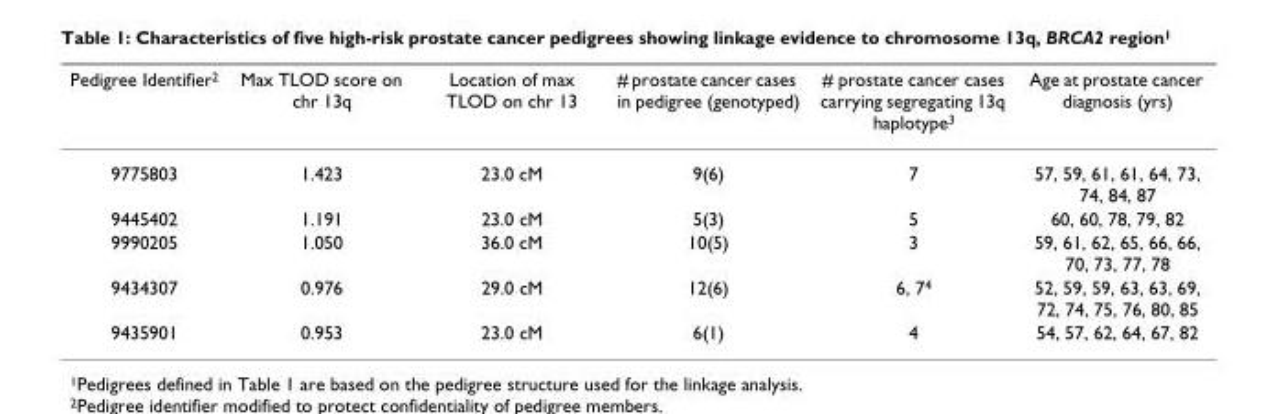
<table><thead><tr><td>Pedigree Identifier<sup>2</sup></td><td>Max TLOD score on chr 13q</td><td>Location of max TLOD on chr 13</td><td># prostate cancer cases in pedigree (genotyped)</td><td># prostate cancer cases carrying segregating 13q haplotype<sup>3</sup></td><td>Age at prostate cancer diagnosis (yrs)</td></tr></thead><tbody><tr><td>9775803</td><td>1.423</td><td>23.0 cM</td><td>9(6)</td><td>7</td><td>57, 59, 61, 61, 64, 73, 74, 84, 87</td></tr><tr><td>9445402</td><td>1.191</td><td>23.0 cM</td><td>5(3)</td><td>5</td><td>60, 60, 78, 79, 82</td></tr><tr><td>9990205</td><td>1.050</td><td>36.0 cM</td><td>10(5)</td><td>3</td><td>59, 61, 62, 65, 66, 66, 70, 73, 77, 78</td></tr><tr><td>9434307</td><td>0.976</td><td>29.0 cM</td><td>12(6)</td><td>6, 7<sup>4</sup></td><td>52, 59, 59, 63, 63, 69, 72, 74, 75, 76, 80, 85</td></tr><tr><td>9435901</td><td>0.953</td><td>23.0 cM</td><td>6(1)</td><td>4</td><td>54, 57, 62, 64, 67, 82</td></tr></tbody></table>